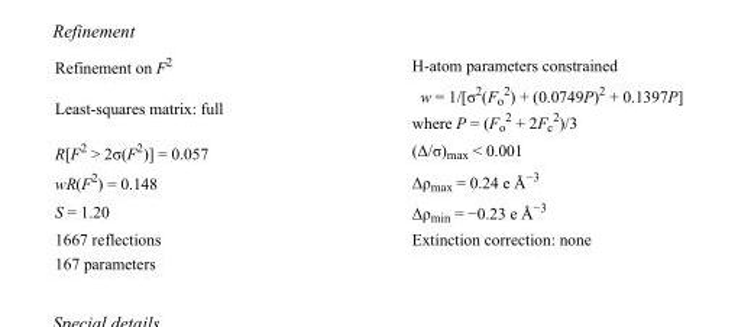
<table><tbody><tr><td>Refinement on F<sup>2</sup></td><td>H-atom parameters constrained</td></tr><tr><td>Least-squares matrix: full</td><td>w = 1/[σ<sup>2</sup>(F<sub>o</sub> <sup>2</sup>) + (0.0749P)<sup>2</sup> + 0.1397P] where P = (F<sub>o</sub> <sup>2</sup> + 2F<sub>c</sub> <sup>2</sup>)/3</td></tr><tr><td>R[F<sup>2</sup> &gt; 2σ(F<sup>2</sup>)] = 0.057</td><td>(Δ/σ)<sub>max</sub> &lt; 0.001</td></tr><tr><td>wR(F<sup>2</sup>) = 0.148</td><td>Δρ<sub>max</sub> = 0.24 e Å<sup>−3</sup></td></tr><tr><td>S = 1.20</td><td>Δρ<sub>min</sub> = −0.23 e Å<sup>−3</sup></td></tr><tr><td>1667 reflections</td><td>Extinction correction: none</td></tr><tr><td>167 parameters</td><td></td></tr></tbody></table>